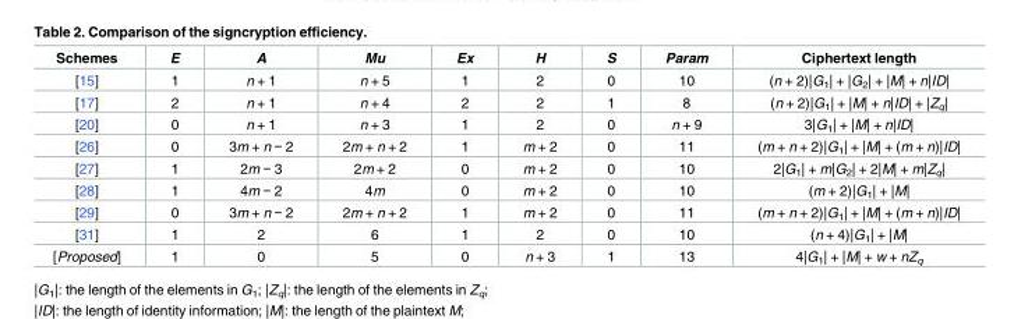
<table><thead><tr><td>Schemes</td><td>E</td><td>A</td><td>Mu</td><td>Ex</td><td>H</td><td>S</td><td>Param</td><td>Ciphertext length</td></tr></thead><tbody><tr><td>[15]</td><td>1</td><td>n + 1</td><td>n + 5</td><td>1</td><td>2</td><td>0</td><td>10</td><td>(n + 2)|G<sub>1</sub>| + |G<sub>2</sub>| + |M| + n|ID|</td></tr><tr><td>[17]</td><td>2</td><td>n + 1</td><td>n + 4</td><td>2</td><td>2</td><td>1</td><td>8</td><td>(n + 2)|G<sub>1</sub>| + |M| + n|ID| + |Z<sub>q</sub>|</td></tr><tr><td>[20]</td><td>0</td><td>n + 1</td><td>n + 3</td><td>1</td><td>2</td><td>0</td><td>n + 9</td><td>3|G<sub>1</sub>| + |M| + n|ID|</td></tr><tr><td>[26]</td><td>0</td><td>3m + n − 2</td><td>2m + n + 2</td><td>1</td><td>m + 2</td><td>0</td><td>11</td><td>(m + n + 2)|G<sub>1</sub>| + |M| + (m + n)|ID|</td></tr><tr><td>[27]</td><td>1</td><td>2m − 3</td><td>2m + 2</td><td>0</td><td>m + 2</td><td>0</td><td>10</td><td>2|G<sub>1</sub>| + m|G<sub>2</sub>| + 2|M| + m|Z<sub>q</sub>|</td></tr><tr><td>[28]</td><td>1</td><td>4m − 2</td><td>4m</td><td>0</td><td>m + 2</td><td>0</td><td>10</td><td>(m + 2)|G<sub>1</sub>| + |M|</td></tr><tr><td>[29]</td><td>0</td><td>3m + n − 2</td><td>2m + n + 2</td><td>1</td><td>m + 2</td><td>0</td><td>11</td><td>(m + n + 2)|G<sub>1</sub>| + |M| + (m + n)|ID|</td></tr><tr><td>[31]</td><td>1</td><td>2</td><td>6</td><td>1</td><td>2</td><td>0</td><td>10</td><td>(n + 4)|G<sub>1</sub>| + |M|</td></tr><tr><td>[Proposed]</td><td>1</td><td>0</td><td>5</td><td>0</td><td>n + 3</td><td>1</td><td>13</td><td>4|G<sub>1</sub>| + |M| + w + nZ<sub>q</sub></td></tr></tbody></table>